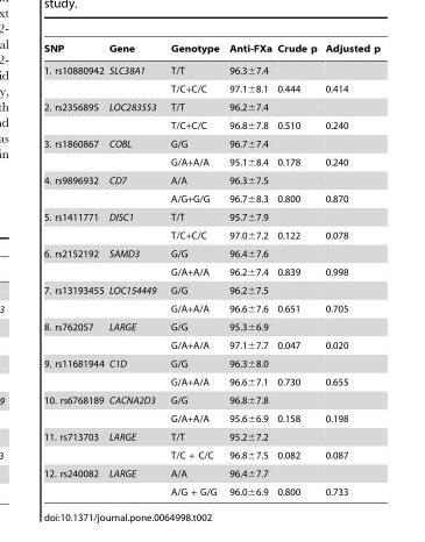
<table><thead><tr><td>SNP</td><td>Gene</td><td>Genotype</td><td>Anti-FXa</td><td>Crude p</td><td>Adjusted p</td></tr></thead><tbody><tr><td rowspan="2">1. rs10880942</td><td>SLC38A1</td><td>T/T</td><td>96.3±7.4</td><td></td><td></td></tr><tr><td></td><td>T/C+C/C</td><td>97.1±8.1</td><td>0.444</td><td>0.414</td></tr><tr><td rowspan="2">2. rs2356895</td><td>LOC283553</td><td>T/T</td><td>96.2±7.4</td><td></td><td></td></tr><tr><td></td><td>T/C+C/C</td><td>96.8±7.8</td><td>0.510</td><td>0.240</td></tr><tr><td rowspan="2">3. rs1860867</td><td>COBL</td><td>G/G</td><td>96.7±7.4</td><td></td><td></td></tr><tr><td></td><td>G/A+A/A</td><td>95.1±8.4</td><td>0.178</td><td>0.240</td></tr><tr><td rowspan="2">4. rs9896932</td><td>CD7</td><td>A/A</td><td>96.3±7.5</td><td></td><td></td></tr><tr><td></td><td>A/G+G/G</td><td>96.7±8.3</td><td>0.800</td><td>0.870</td></tr><tr><td rowspan="2">5. rs1411771</td><td>DISC1</td><td>T/T</td><td>95.7±7.9</td><td></td><td></td></tr><tr><td></td><td>T/C+C/C</td><td>97.0±7.2</td><td>0.122</td><td>0.078</td></tr><tr><td rowspan="2">6. rs2152192</td><td>SAMD3</td><td>G/G</td><td>96.4±7.6</td><td></td><td></td></tr><tr><td></td><td>G/A+A/A</td><td>96.2±7.4</td><td>0.839</td><td>0.998</td></tr><tr><td rowspan="2">7. rs13193455</td><td>LOC154449</td><td>G/G</td><td>96.2±7.5</td><td></td><td></td></tr><tr><td></td><td>G/A+A/A</td><td>96.6±7.6</td><td>0.651</td><td>0.705</td></tr><tr><td rowspan="2">8. rs762057</td><td>LARGE</td><td>G/G</td><td>95.3±6.9</td><td></td><td></td></tr><tr><td></td><td>G/A+A/A</td><td>97.1±7.7</td><td>0.047</td><td>0.020</td></tr><tr><td rowspan="2">9. rs11681944</td><td>C1D</td><td>G/G</td><td>96.3±8.0</td><td></td><td></td></tr><tr><td></td><td>G/A+A/A</td><td>96.6±7.1</td><td>0.730</td><td>0.655</td></tr><tr><td rowspan="2">10. rs6768189</td><td>CACNA2D3</td><td>G/G</td><td>96.8±7.8</td><td></td><td></td></tr><tr><td></td><td>G/A+A/A</td><td>95.6±6.9</td><td>0.158</td><td>0.198</td></tr><tr><td rowspan="2">11. rs713703</td><td>LARGE</td><td>T/T</td><td>95.2±7.2</td><td></td><td></td></tr><tr><td></td><td>T/C + C/C</td><td>96.8±7.5</td><td>0.082</td><td>0.087</td></tr><tr><td rowspan="2">12. rs240082</td><td>LARGE</td><td>A/A</td><td>96.4±7.7</td><td></td><td></td></tr><tr><td></td><td>A/G + G/G</td><td>96.0±6.9</td><td>0.800</td><td>0.733</td></tr></tbody></table>